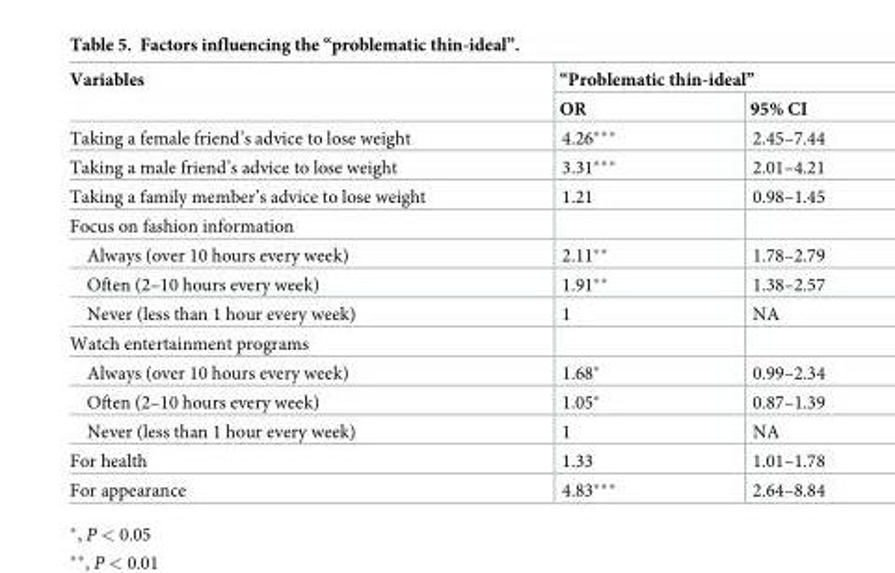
<table><thead><tr><td rowspan="2">Variables</td><td colspan="2">“Problematic thin-ideal”</td></tr><tr><td>OR</td><td>95% CI</td></tr></thead><tbody><tr><td>Taking a female friend’s advice to lose weight</td><td>4.26***</td><td>2.45–7.44</td></tr><tr><td>Taking a male friend’s advice to lose weight</td><td>3.31***</td><td>2.01–4.21</td></tr><tr><td>Taking a family member’s advice to lose weight</td><td>1.21</td><td>0.98–1.45</td></tr><tr><td colspan="3">Focus on fashion information</td></tr><tr><td>Always (over 10 hours every week)</td><td>2.11**</td><td>1.78–2.79</td></tr><tr><td>Often (2–10 hours every week)</td><td>1.91**</td><td>1.38–2.57</td></tr><tr><td>Never (less than 1 hour every week)</td><td>1</td><td>NA</td></tr><tr><td colspan="3">Watch entertainment programs</td></tr><tr><td>Always (over 10 hours every week)</td><td>1.68*</td><td>0.99–2.34</td></tr><tr><td>Often (2–10 hours every week)</td><td>1.05*</td><td>0.87–1.39</td></tr><tr><td>Never (less than 1 hour every week)</td><td>1</td><td>NA</td></tr><tr><td>For health</td><td>1.33</td><td>1.01–1.78</td></tr><tr><td>For appearance</td><td>4.83***</td><td>2.64–8.84</td></tr></tbody></table>